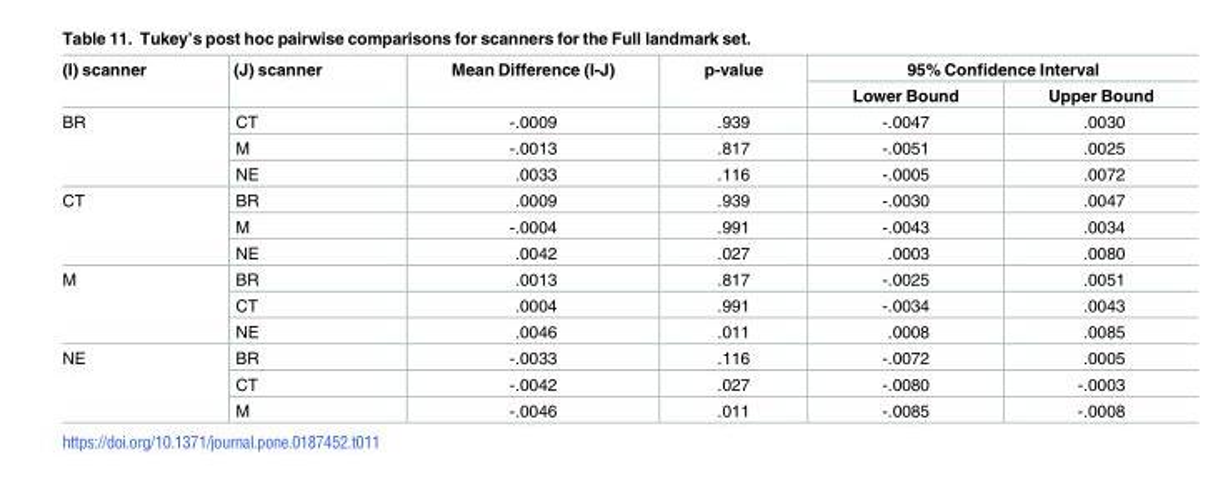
<table><thead><tr><td rowspan="2">(I) scanner</td><td rowspan="2">(J) scanner</td><td rowspan="2">Mean Difference (I-J)</td><td rowspan="2">p-value</td><td colspan="2">95% Confidence Interval</td></tr><tr><td>Lower Bound</td><td>Upper Bound</td></tr></thead><tbody><tr><td rowspan="3">BR</td><td>CT</td><td>-.0009</td><td>.939</td><td>-.0047</td><td>.0030</td></tr><tr><td>M</td><td>-.0013</td><td>.817</td><td>-.0051</td><td>.0025</td></tr><tr><td>NE</td><td>.0033</td><td>.116</td><td>-.0005</td><td>.0072</td></tr><tr><td rowspan="3">CT</td><td>BR</td><td>.0009</td><td>.939</td><td>-.0030</td><td>.0047</td></tr><tr><td>M</td><td>-.0004</td><td>.991</td><td>-.0043</td><td>.0034</td></tr><tr><td>NE</td><td>.0042</td><td>.027</td><td>.0003</td><td>.0080</td></tr><tr><td rowspan="3">M</td><td>BR</td><td>.0013</td><td>.817</td><td>-.0025</td><td>.0051</td></tr><tr><td>CT</td><td>.0004</td><td>.991</td><td>-.0034</td><td>.0043</td></tr><tr><td>NE</td><td>.0046</td><td>.011</td><td>.0008</td><td>.0085</td></tr><tr><td rowspan="3">NE</td><td>BR</td><td>-.0033</td><td>.116</td><td>-.0072</td><td>.0005</td></tr><tr><td>CT</td><td>-.0042</td><td>.027</td><td>-.0080</td><td>-.0003</td></tr><tr><td>M</td><td>-.0046</td><td>.011</td><td>-.0085</td><td>-.0008</td></tr></tbody></table>